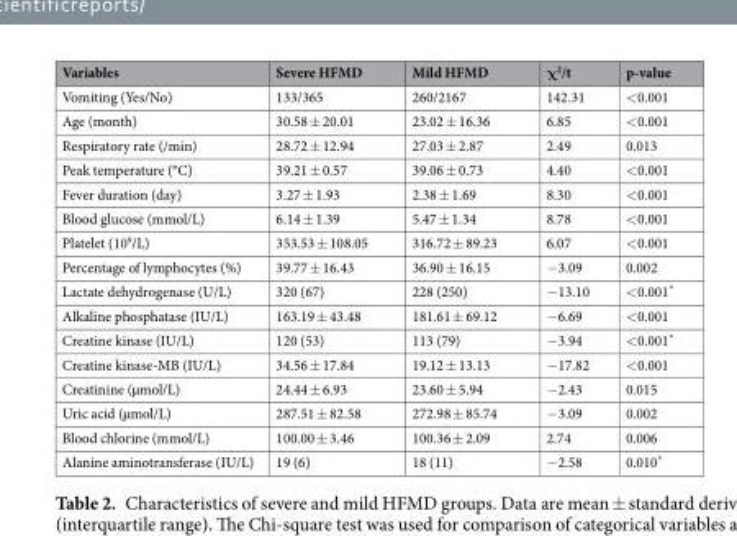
<table><thead><tr><td>Variables</td><td>Severe HFMD</td><td>Mild HFMD</td><td>χ<sup>2</sup>/t</td><td>p-value</td></tr></thead><tbody><tr><td>Vomiting (Yes/No)</td><td>133/365</td><td>260/2167</td><td>142.31</td><td>&lt;0.001</td></tr><tr><td>Age (month)</td><td>30.58 ± 20.01</td><td>23.02 ± 16.36</td><td>6.85</td><td>&lt;0.001</td></tr><tr><td>Respiratory rate (/min)</td><td>28.72 ± 12.94</td><td>27.03 ± 2.87</td><td>2.49</td><td>0.013</td></tr><tr><td>Peak temperature (°C)</td><td>39.21 ± 0.57</td><td>39.06 ± 0.73</td><td>4.40</td><td>&lt;0.001</td></tr><tr><td>Fever duration (day)</td><td>3.27 ± 1.93</td><td>2.38 ± 1.69</td><td>8.30</td><td>&lt;0.001</td></tr><tr><td>Blood glucose (mmol/L)</td><td>6.14 ± 1.39</td><td>5.47 ± 1.34</td><td>8.78</td><td>&lt;0.001</td></tr><tr><td>Platelet (10<sup>9</sup>/L)</td><td>353.53 ± 108.05</td><td>316.72 ± 89.23</td><td>6.07</td><td>&lt;0.001</td></tr><tr><td>Percentage of lymphocytes (%)</td><td>39.77 ± 16.43</td><td>36.90 ± 16.15</td><td>−3.09</td><td>0.002</td></tr><tr><td>Lactate dehydrogenase (U/L)</td><td>320 (67)</td><td>228 (250)</td><td>−13.10</td><td>&lt;0.001*</td></tr><tr><td>Alkaline phosphatase (IU/L)</td><td>163.19 ± 43.48</td><td>181.61 ± 69.12</td><td>−6.69</td><td>&lt;0.001</td></tr><tr><td>Creatine kinase (IU/L)</td><td>120 (53)</td><td>113 (79)</td><td>−3.94</td><td>&lt;0.001*</td></tr><tr><td>Creatine kinase-MB (IU/L)</td><td>34.56 ± 17.84</td><td>19.12 ± 13.13</td><td>−17.82</td><td>&lt;0.001</td></tr><tr><td>Creatinine (µmol/L)</td><td>24.44 ± 6.93</td><td>23.60 ± 5.94</td><td>−2.43</td><td>0.015</td></tr><tr><td>Uric acid (µmol/L)</td><td>287.51 ± 82.58</td><td>272.98 ± 85.74</td><td>−3.09</td><td>0.002</td></tr><tr><td>Blood chlorine (mmol/L)</td><td>100.00 ± 3.46</td><td>100.36 ± 2.09</td><td>2.74</td><td>0.006</td></tr><tr><td>Alanine aminotransferase (IU/L)</td><td>19 (6)</td><td>18 (11)</td><td>−2.58</td><td>0.010*</td></tr></tbody></table>